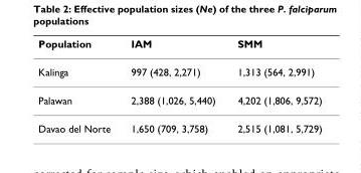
<table><thead><tr><td>Population</td><td>IAM</td><td>SMM</td></tr></thead><tbody><tr><td>Kalinga</td><td>997 (428, 2,271)</td><td>1,313 (564, 2,991)</td></tr><tr><td>Palawan</td><td>2,388 (1,026, 5,440)</td><td>4,202 (1,806, 9,572)</td></tr><tr><td>Davao del Norte</td><td>1,650 (709, 3,758)</td><td>2,515 (1,081, 5,729)</td></tr></tbody></table>